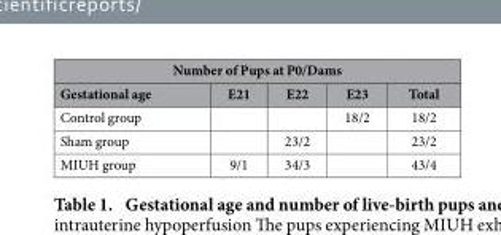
<table><thead><tr><td colspan="5">Number of Pups at P0/Dams</td></tr><tr><td>Gestational age</td><td>E21</td><td>E22</td><td>E23</td><td>Total</td></tr></thead><tbody><tr><td>Control group</td><td></td><td></td><td>18/2</td><td>18/2</td></tr><tr><td>Sham group</td><td></td><td>23/2</td><td></td><td>23/2</td></tr><tr><td>MIUH group</td><td>9/1</td><td>34/3</td><td></td><td>43/4</td></tr></tbody></table>